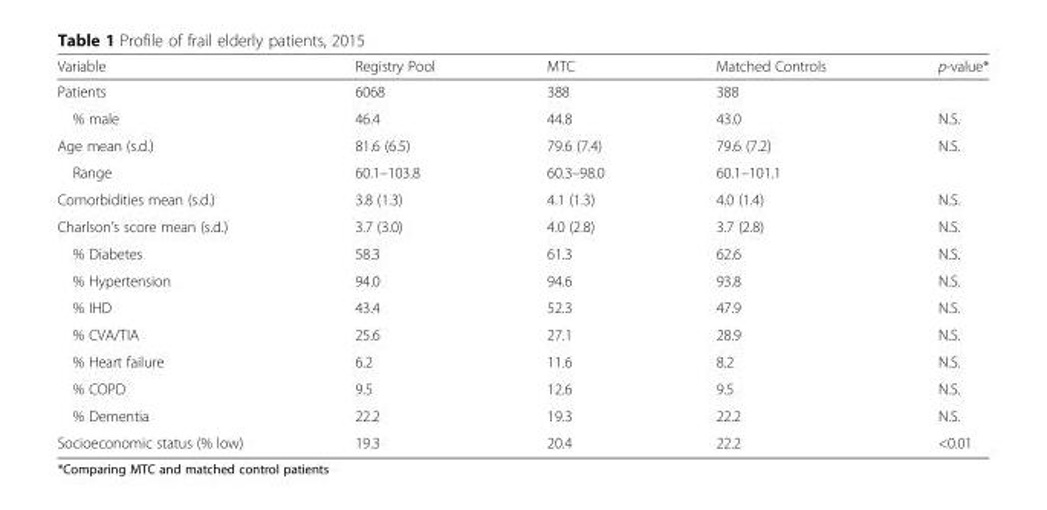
<table><thead><tr><td>Variable</td><td>Registry Pool</td><td>MTC</td><td>Matched Controls</td><td>p-value*</td></tr></thead><tbody><tr><td>Patients</td><td>6068</td><td>388</td><td>388</td><td></td></tr><tr><td>% male</td><td>46.4</td><td>44.8</td><td>43.0</td><td>N.S.</td></tr><tr><td>Age mean (s.d.)</td><td>81.6 (6.5)</td><td>79.6 (7.4)</td><td>79.6 (7.2)</td><td rowspan="2">N.S.</td></tr><tr><td>Range</td><td>60.1–103.8</td><td>60.3–98.0</td><td>60.1–101.1</td></tr><tr><td>Comorbidities mean (s.d.)</td><td>3.8 (1.3)</td><td>4.1 (1.3)</td><td>4.0 (1.4)</td><td>N.S.</td></tr><tr><td>Charlson’s score mean (s.d.)</td><td>3.7 (3.0)</td><td>4.0 (2.8)</td><td>3.7 (2.8)</td><td>N.S.</td></tr><tr><td>% Diabetes</td><td>58.3</td><td>61.3</td><td>62.6</td><td>N.S.</td></tr><tr><td>% Hypertension</td><td>94.0</td><td>94.6</td><td>93.8</td><td>N.S.</td></tr><tr><td>% IHD</td><td>43.4</td><td>52.3</td><td>47.9</td><td>N.S.</td></tr><tr><td>% CVA/TIA</td><td>25.6</td><td>27.1</td><td>28.9</td><td>N.S.</td></tr><tr><td>% Heart failure</td><td>6.2</td><td>11.6</td><td>8.2</td><td>N.S.</td></tr><tr><td>% COPD</td><td>9.5</td><td>12.6</td><td>9.5</td><td>N.S.</td></tr><tr><td>% Dementia</td><td>22.2</td><td>19.3</td><td>22.2</td><td>N.S.</td></tr><tr><td>Socioeconomic status (% low)</td><td>19.3</td><td>20.4</td><td>22.2</td><td>&lt;0.01</td></tr></tbody></table>